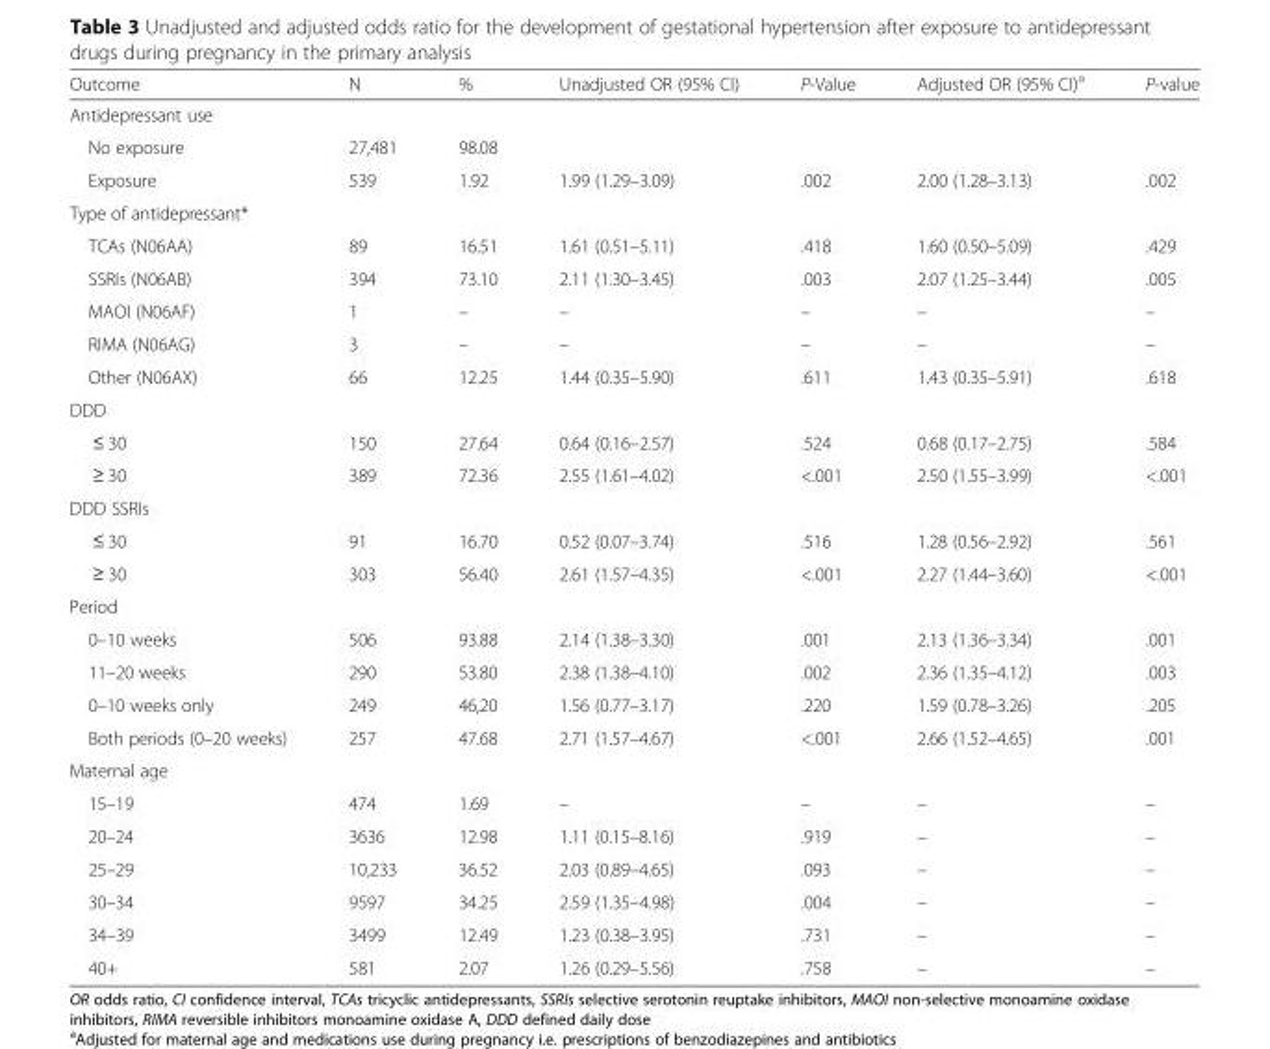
<table><thead><tr><td>Outcome</td><td>N</td><td>%</td><td>Unadjusted OR (95% CI)</td><td>P-Value</td><td>Adjusted OR (95% CI)<sup>a</sup></td><td>P-value</td></tr></thead><tbody><tr><td colspan="7">Antidepressant use</td></tr><tr><td>No exposure</td><td>27,481</td><td>98.08</td><td></td><td></td><td></td><td></td></tr><tr><td>Exposure</td><td>539</td><td>1.92</td><td>1.99 (1.29–3.09)</td><td>.002</td><td>2.00 (1.28–3.13)</td><td>.002</td></tr><tr><td colspan="7">Type of antidepressant*</td></tr><tr><td>TCAs (N06AA)</td><td>89</td><td>16.51</td><td>1.61 (0.51–5.11)</td><td>.418</td><td>1.60 (0.50–5.09)</td><td>.429</td></tr><tr><td>SSRIs (N06AB)</td><td>394</td><td>73.10</td><td>2.11 (1.30–3.45)</td><td>.003</td><td>2.07 (1.25–3.44)</td><td>.005</td></tr><tr><td>MAOI (N06AF)</td><td>1</td><td>–</td><td>–</td><td>–</td><td>–</td><td>–</td></tr><tr><td>RIMA (N06AG)</td><td>3</td><td>–</td><td>–</td><td>–</td><td>–</td><td>–</td></tr><tr><td>Other (N06AX)</td><td>66</td><td>12.25</td><td>1.44 (0.35–5.90)</td><td>.611</td><td>1.43 (0.35–5.91)</td><td>.618</td></tr><tr><td colspan="7">DDD</td></tr><tr><td>≤ 30</td><td>150</td><td>27.64</td><td>0.64 (0.16–2.57)</td><td>.524</td><td>0.68 (0.17–2.75)</td><td>.584</td></tr><tr><td>≥ 30</td><td>389</td><td>72.36</td><td>2.55 (1.61–4.02)</td><td>&lt;.001</td><td>2.50 (1.55–3.99)</td><td>&lt;.001</td></tr><tr><td colspan="7">DDD SSRIs</td></tr><tr><td>≤ 30</td><td>91</td><td>16.70</td><td>0.52 (0.07–3.74)</td><td>.516</td><td>1.28 (0.56–2.92)</td><td>.561</td></tr><tr><td>≥ 30</td><td>303</td><td>56.40</td><td>2.61 (1.57–4.35)</td><td>&lt;.001</td><td>2.27 (1.44–3.60)</td><td>&lt;.001</td></tr><tr><td colspan="7">Period</td></tr><tr><td>0–10 weeks</td><td>506</td><td>93.88</td><td>2.14 (1.38–3.30)</td><td>.001</td><td>2.13 (1.36–3.34)</td><td>.001</td></tr><tr><td>11–20 weeks</td><td>290</td><td>53.80</td><td>2.38 (1.38–4.10)</td><td>.002</td><td>2.36 (1.35–4.12)</td><td>.003</td></tr><tr><td>0–10 weeks only</td><td>249</td><td>46,20</td><td>1.56 (0.77–3.17)</td><td>.220</td><td>1.59 (0.78–3.26)</td><td>.205</td></tr><tr><td>Both periods (0–20 weeks)</td><td>257</td><td>47.68</td><td>2.71 (1.57–4.67)</td><td>&lt;.001</td><td>2.66 (1.52–4.65)</td><td>.001</td></tr><tr><td colspan="7">Maternal age</td></tr><tr><td>15–19</td><td>474</td><td>1.69</td><td>–</td><td>–</td><td>–</td><td>–</td></tr><tr><td>20–24</td><td>3636</td><td>12.98</td><td>1.11 (0.15–8.16)</td><td>.919</td><td>–</td><td>–</td></tr><tr><td>25–29</td><td>10,233</td><td>36.52</td><td>2.03 (0.89–4.65)</td><td>.093</td><td>–</td><td>–</td></tr><tr><td>30–34</td><td>9597</td><td>34.25</td><td>2.59 (1.35–4.98)</td><td>.004</td><td>–</td><td>–</td></tr><tr><td>34–39</td><td>3499</td><td>12.49</td><td>1.23 (0.38–3.95)</td><td>.731</td><td>–</td><td>–</td></tr><tr><td>40+</td><td>581</td><td>2.07</td><td>1.26 (0.29–5.56)</td><td>.758</td><td>–</td><td>–</td></tr></tbody></table>